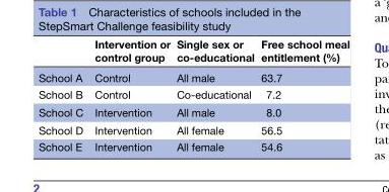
<table><thead><tr><td></td><td>Intervention or control group</td><td>Single sex or co-educational</td><td>Free school meal entitlement (%)</td></tr></thead><tbody><tr><td>School A</td><td>Control</td><td>All male</td><td>63.7</td></tr><tr><td>School B</td><td>Control</td><td>Co-educational</td><td>7.2</td></tr><tr><td>School C</td><td>Intervention</td><td>All male</td><td>8.0</td></tr><tr><td>School D</td><td>Intervention</td><td>All female</td><td>56.5</td></tr><tr><td>School E</td><td>Intervention</td><td>All female</td><td>54.6</td></tr></tbody></table>